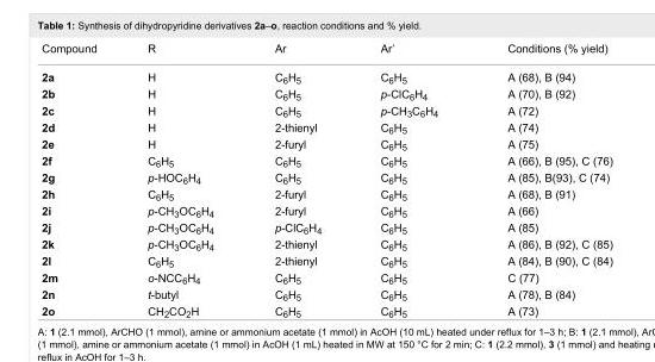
<table><tbody><tr><td>Compound</td><td>R</td><td>Ar</td><td>Ar’</td><td>Conditions (% yield)</td></tr><tr><td>2a</td><td>H</td><td>C<sub>6</sub>H<sub>5</sub></td><td>C<sub>6</sub>H<sub>5</sub></td><td>A (68), B (94)</td></tr><tr><td>2b</td><td>H</td><td>C<sub>6</sub>H<sub>5</sub></td><td>p-ClC<sub>6</sub>H<sub>4</sub></td><td>A (70), B (92)</td></tr><tr><td>2c</td><td>H</td><td>C<sub>6</sub>H<sub>5</sub></td><td>p-CH<sub>3</sub>C<sub>6</sub>H<sub>4</sub></td><td>A (72)</td></tr><tr><td>2d</td><td>H</td><td>2-thienyl</td><td>C<sub>6</sub>H<sub>5</sub></td><td>A (74)</td></tr><tr><td>2e</td><td>H</td><td>2-furyl</td><td>C<sub>6</sub>H<sub>5</sub></td><td>A (75)</td></tr><tr><td>2f</td><td>C<sub>6</sub>H<sub>5</sub></td><td>C<sub>6</sub>H<sub>5</sub></td><td>C<sub>6</sub>H<sub>5</sub></td><td>A (66), B (95), C (76)</td></tr><tr><td>2g</td><td>p-HOC<sub>6</sub>H<sub>4</sub></td><td>C<sub>6</sub>H<sub>5</sub></td><td>C<sub>6</sub>H<sub>5</sub></td><td>A (85), B(93), C (74)</td></tr><tr><td>2h</td><td>C<sub>6</sub>H<sub>5</sub></td><td>2-furyl</td><td>C<sub>6</sub>H<sub>5</sub></td><td>A (68), B (91)</td></tr><tr><td>2i</td><td>p-CH<sub>3</sub>OC<sub>6</sub>H<sub>4</sub></td><td>2-furyl</td><td>C<sub>6</sub>H<sub>5</sub></td><td>A (66)</td></tr><tr><td>2j</td><td>p-CH<sub>3</sub>OC<sub>6</sub>H<sub>4</sub></td><td>p-ClC<sub>6</sub>H<sub>4</sub></td><td>C<sub>6</sub>H<sub>5</sub></td><td>A (85)</td></tr><tr><td>2k</td><td>p-CH<sub>3</sub>OC<sub>6</sub>H<sub>4</sub></td><td>2-thienyl</td><td>C<sub>6</sub>H<sub>5</sub></td><td>A (86), B (92), C (85)</td></tr><tr><td>2l</td><td>C<sub>6</sub>H<sub>5</sub></td><td>2-thienyl</td><td>C<sub>6</sub>H<sub>5</sub></td><td>A (84), B (90), C (84)</td></tr><tr><td>2m</td><td>o-NCC<sub>6</sub>H<sub>4</sub></td><td>C<sub>6</sub>H<sub>5</sub></td><td>C<sub>6</sub>H<sub>5</sub></td><td>C (77)</td></tr><tr><td>2n</td><td>t-butyl</td><td>C<sub>6</sub>H<sub>5</sub></td><td>C<sub>6</sub>H<sub>5</sub></td><td>A (78), B (84)</td></tr><tr><td>2o</td><td>CH<sub>2</sub>CO<sub>2</sub>H</td><td>C<sub>6</sub>H<sub>5</sub></td><td>C<sub>6</sub>H<sub>5</sub></td><td>A (73)</td></tr></tbody></table>